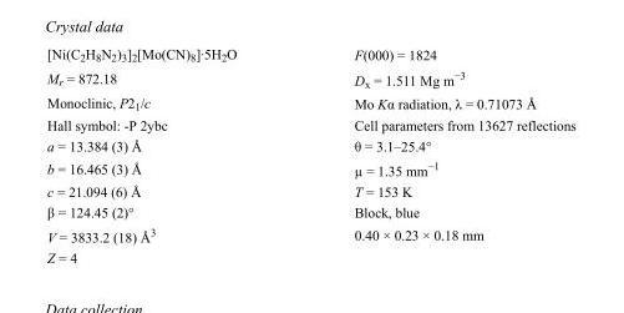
<table><tbody><tr><td>[Ni(C<sub>2</sub>H<sub>8</sub>N<sub>2</sub>)<sub>3</sub>]<sub>2</sub>[Mo(CN)<sub>8</sub>]·5H<sub>2</sub>O</td><td>F(000) = 1824</td></tr><tr><td>M<sub>r</sub> = 872.18</td><td>D<sub>x</sub> = 1.511 Mg m<sup>−3</sup></td></tr><tr><td>Monoclinic, P2<sub>1</sub>/c</td><td>Mo Kα radiation, λ = 0.71073 Å</td></tr><tr><td>Hall symbol: -P 2ybc</td><td>Cell parameters from 13627 reflections</td></tr><tr><td>a = 13.384 (3) Å</td><td>θ = 3.1–25.4°</td></tr><tr><td>b = 16.465 (3) Å</td><td>µ = 1.35 mm<sup>−1</sup></td></tr><tr><td>c = 21.094 (6) Å</td><td>T = 153 K</td></tr><tr><td>β = 124.45 (2)°</td><td>Block, blue</td></tr><tr><td>V = 3833.2 (18) Å<sup>3</sup></td><td>0.40 × 0.23 × 0.18 mm</td></tr><tr><td>Z = 4</td><td></td></tr></tbody></table>